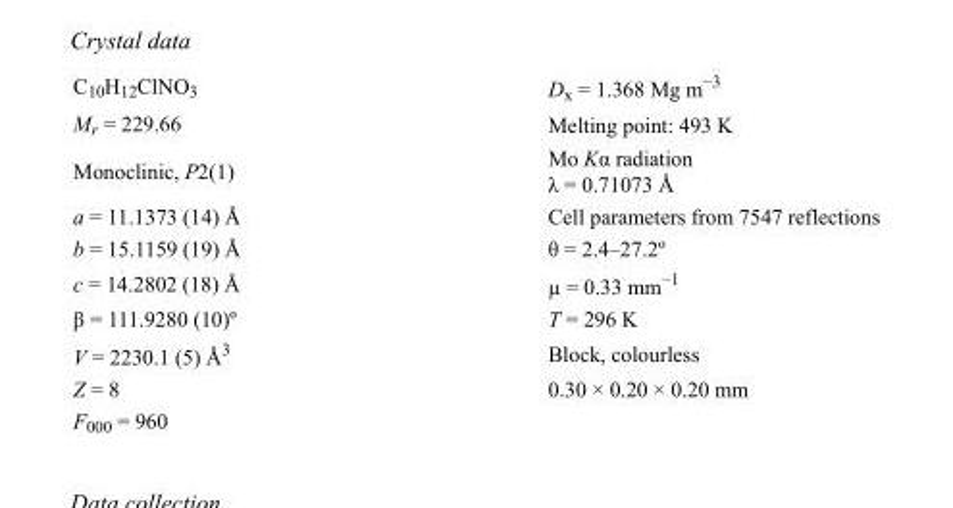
<table><tbody><tr><td>C<sub>10</sub>H<sub>12</sub>ClNO<sub>3</sub></td><td>D<sub>x</sub> = 1.368 Mg m<sup>−3</sup></td></tr><tr><td>M<sub>r</sub> = 229.66</td><td>Melting point: 493 K</td></tr><tr><td>Monoclinic, P2(1)</td><td>Mo Kα radiation λ = 0.71073 Å</td></tr><tr><td>a = 11.1373 (14) Å</td><td>Cell parameters from 7547 reflections</td></tr><tr><td>b = 15.1159 (19) Å</td><td>θ = 2.4–27.2º</td></tr><tr><td>c = 14.2802 (18) Å</td><td>µ = 0.33 mm<sup>−1</sup></td></tr><tr><td>β = 111.9280 (10)º</td><td>T = 296 K</td></tr><tr><td>V = 2230.1 (5) Å<sup>3</sup></td><td>Block, colourless</td></tr><tr><td>Z = 8</td><td>0.30 × 0.20 × 0.20 mm</td></tr><tr><td>F000 = 960</td><td></td></tr></tbody></table>